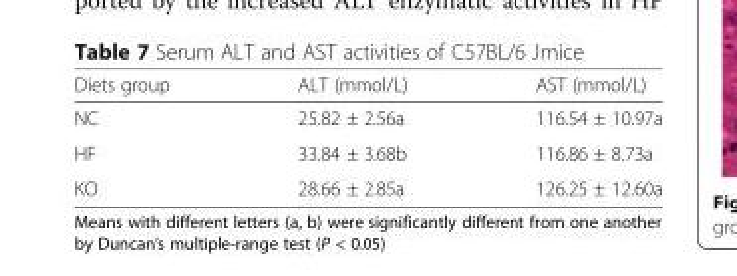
<table><thead><tr><td>Diets group</td><td>ALT (mmol/L)</td><td>AST (mmol/L)</td></tr></thead><tbody><tr><td>NC</td><td>25.82 ± 2.56a</td><td>116.54 ± 10.97a</td></tr><tr><td>HF</td><td>33.84 ± 3.68b</td><td>116.86 ± 8.73a</td></tr><tr><td>KO</td><td>28.66 ± 2.85a</td><td>126.25 ± 12.60a</td></tr></tbody></table>